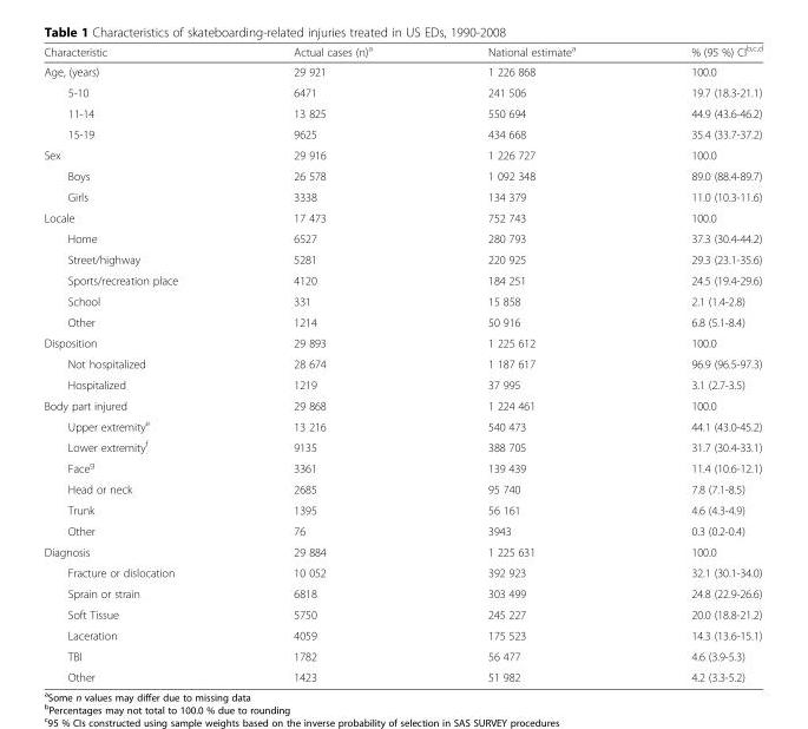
<table><thead><tr><td>Characteristic</td><td>Actual cases (n)<sup>a</sup></td><td>National estimate<sup>a</sup></td><td>% (95 %) CI<sup>b,c,d</sup></td></tr></thead><tbody><tr><td>Age, (years)</td><td>29 921</td><td>1 226 868</td><td>100.0</td></tr><tr><td>5-10</td><td>6471</td><td>241 506</td><td>19.7 (18.3-21.1)</td></tr><tr><td>11-14</td><td>13 825</td><td>550 694</td><td>44.9 (43.6-46.2)</td></tr><tr><td>15-19</td><td>9625</td><td>434 668</td><td>35.4 (33.7-37.2)</td></tr><tr><td>Sex</td><td>29 916</td><td>1 226 727</td><td>100.0</td></tr><tr><td>Boys</td><td>26 578</td><td>1 092 348</td><td>89.0 (88.4-89.7)</td></tr><tr><td>Girls</td><td>3338</td><td>134 379</td><td>11.0 (10.3-11.6)</td></tr><tr><td>Locale</td><td>17 473</td><td>752 743</td><td>100.0</td></tr><tr><td>Home</td><td>6527</td><td>280 793</td><td>37.3 (30.4-44.2)</td></tr><tr><td>Street/highway</td><td>5281</td><td>220 925</td><td>29.3 (23.1-35.6)</td></tr><tr><td>Sports/recreation place</td><td>4120</td><td>184 251</td><td>24.5 (19.4-29.6)</td></tr><tr><td>School</td><td>331</td><td>15 858</td><td>2.1 (1.4-2.8)</td></tr><tr><td>Other</td><td>1214</td><td>50 916</td><td>6.8 (5.1-8.4)</td></tr><tr><td>Disposition</td><td>29 893</td><td>1 225 612</td><td>100.0</td></tr><tr><td>Not hospitalized</td><td>28 674</td><td>1 187 617</td><td>96.9 (96.5-97.3)</td></tr><tr><td>Hospitalized</td><td>1219</td><td>37 995</td><td>3.1 (2.7-3.5)</td></tr><tr><td>Body part injured</td><td>29 868</td><td>1 224 461</td><td>100.0</td></tr><tr><td>Upper extremity<sup>e</sup></td><td>13 216</td><td>540 473</td><td>44.1 (43.0-45.2)</td></tr><tr><td>Lower extremity<sup>f</sup></td><td>9135</td><td>388 705</td><td>31.7 (30.4-33.1)</td></tr><tr><td>Face<sup>g</sup></td><td>3361</td><td>139 439</td><td>11.4 (10.6-12.1)</td></tr><tr><td>Head or neck</td><td>2685</td><td>95 740</td><td>7.8 (7.1-8.5)</td></tr><tr><td>Trunk</td><td>1395</td><td>56 161</td><td>4.6 (4.3-4.9)</td></tr><tr><td>Other</td><td>76</td><td>3943</td><td>0.3 (0.2-0.4)</td></tr><tr><td>Diagnosis</td><td>29 884</td><td>1 225 631</td><td>100.0</td></tr><tr><td>Fracture or dislocation</td><td>10 052</td><td>392 923</td><td>32.1 (30.1-34.0)</td></tr><tr><td>Sprain or strain</td><td>6818</td><td>303 499</td><td>24.8 (22.9-26.6)</td></tr><tr><td>Soft Tissue</td><td>5750</td><td>245 227</td><td>20.0 (18.8-21.2)</td></tr><tr><td>Laceration</td><td>4059</td><td>175 523</td><td>14.3 (13.6-15.1)</td></tr><tr><td>TBI</td><td>1782</td><td>56 477</td><td>4.6 (3.9-5.3)</td></tr><tr><td>Other</td><td>1423</td><td>51 982</td><td>4.2 (3.3-5.2)</td></tr></tbody></table>